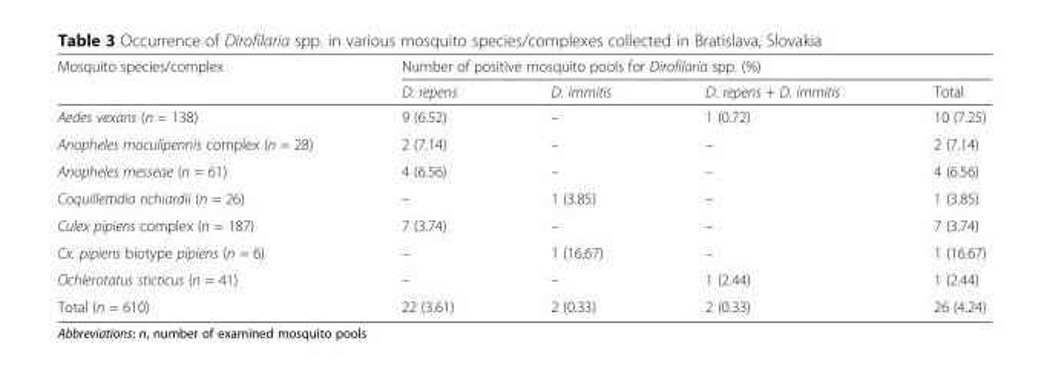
<table><thead><tr><td rowspan="2">Mosquito species/complex</td><td colspan="4">Number of positive mosquito pools for Dirofilaria spp. (%)</td></tr><tr><td>D. repens</td><td>D. immitis</td><td>D. repens + D. immitis</td><td>Total</td></tr></thead><tbody><tr><td>Aedes vexans (n = 138)</td><td>9 (6.52)</td><td>–</td><td>1 (0.72)</td><td>10 (7.25)</td></tr><tr><td>Anopheles maculipennis complex (n = 28)</td><td>2 (7.14)</td><td>–</td><td>–</td><td>2 (7.14)</td></tr><tr><td>Anopheles messeae (n = 61)</td><td>4 (6.56)</td><td>–</td><td>–</td><td>4 (6.56)</td></tr><tr><td>Coquillettidia richiardii (n = 26)</td><td>–</td><td>1 (3.85)</td><td>–</td><td>1 (3.85)</td></tr><tr><td>Culex pipiens complex (n = 187)</td><td>7 (3.74)</td><td>–</td><td>–</td><td>7 (3.74)</td></tr><tr><td>Cx. pipiens biotype pipiens (n = 6)</td><td>–</td><td>1 (16.67)</td><td>–</td><td>1 (16.67)</td></tr><tr><td>Ochlerotatus sticticus (n = 41)</td><td>–</td><td>–</td><td>1 (2.44)</td><td>1 (2.44)</td></tr><tr><td>Total (n = 610)</td><td>22 (3.61)</td><td>2 (0.33)</td><td>2 (0.33)</td><td>26 (4.24)</td></tr></tbody></table>